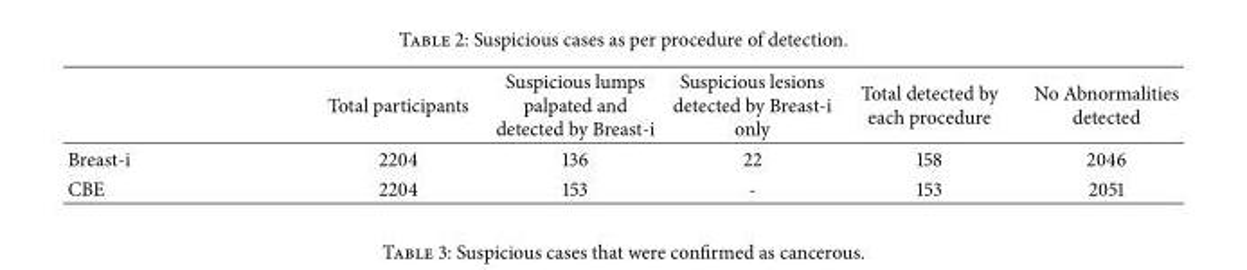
<table><thead><tr><td></td><td>Total participants</td><td>Suspicious lumps palpated and detected by Breast-i</td><td>Suspicious lesions detected by Breast-i only</td><td>Total detected by each procedure</td><td>No Abnormalities detected</td></tr></thead><tbody><tr><td>Breast-i</td><td>2204</td><td>136</td><td>22</td><td>158</td><td>2046</td></tr><tr><td>CBE</td><td>2204</td><td>153</td><td>-</td><td>153</td><td>2051</td></tr></tbody></table>